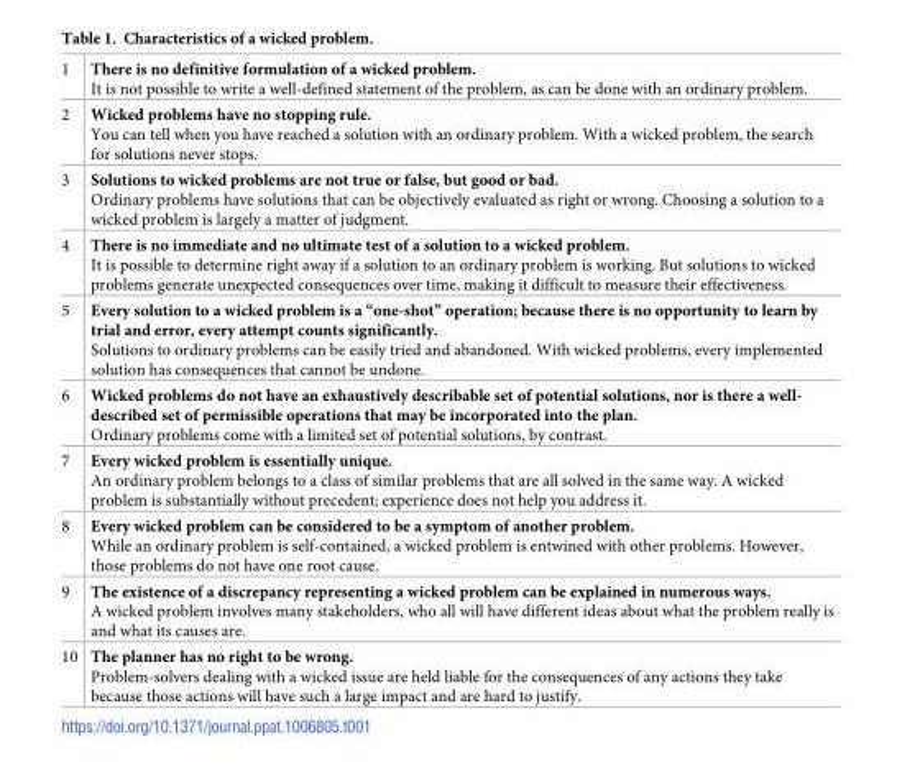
<table><tbody><tr><td>1</td><td>There is no definitive formulation of a wicked problem. It is not possible to write a well-defined statement of the problem, as can be done with an ordinary problem.</td></tr><tr><td>2</td><td>Wicked problems have no stopping rule. You can tell when you have reached a solution with an ordinary problem. With a wicked problem, the search for solutions never stops.</td></tr><tr><td>3</td><td>Solutions to wicked problems are not true or false, but good or bad. Ordinary problems have solutions that can be objectively evaluated as right or wrong. Choosing a solution to a wicked problem is largely a matter of judgment.</td></tr><tr><td>4</td><td>There is no immediate and no ultimate test of a solution to a wicked problem. It is possible to determine right away if a solution to an ordinary problem is working. But solutions to wicked problems generate unexpected consequences over time, making it difficult to measure their effectiveness.</td></tr><tr><td>5</td><td>Every solution to a wicked problem is a “one-shot” operation; because there is no opportunity to learn by trial and error, every attempt counts significantly. Solutions to ordinary problems can be easily tried and abandoned. With wicked problems, every implemented solution has consequences that cannot be undone.</td></tr><tr><td>6</td><td>Wicked problems do not have an exhaustively describable set of potential solutions, nor is there a well- described set of permissible operations that may be incorporated into the plan. Ordinary problems come with a limited set of potential solutions, by contrast.</td></tr><tr><td>7</td><td>Every wicked problem is essentially unique. An ordinary problem belongs to a class of similar problems that are all solved in the same way. A wicked problem is substantially without precedent; experience does not help you address it.</td></tr><tr><td>8</td><td>Every wicked problem can be considered to be a symptom of another problem. While an ordinary problem is self-contained, a wicked problem is entwined with other problems. However, those problems do not have one root cause.</td></tr><tr><td>9</td><td>The existence of a discrepancy representing a wicked problem can be explained in numerous ways. A wicked problem involves many stakeholders, who all will have different ideas about what the problem really is and what its causes are.</td></tr><tr><td>10</td><td>The planner has no right to be wrong. Problem-solvers dealing with a wicked issue are held liable for the consequences of any actions they take because those actions will have such a large impact and are hard to justify.</td></tr></tbody></table>